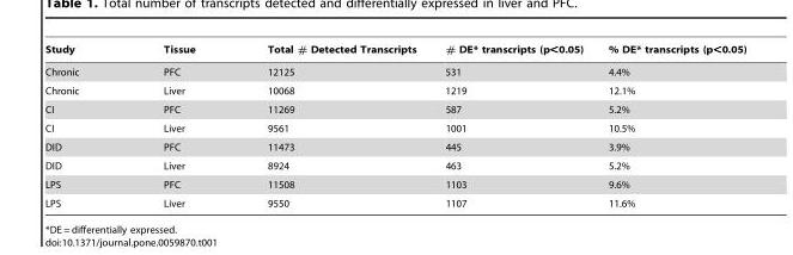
<table><thead><tr><td>Study</td><td>Tissue</td><td>Total # Detected Transcripts</td><td># DE* transcripts (p&lt;0.05)</td><td>% DE* transcripts (p&lt;0.05)</td></tr></thead><tbody><tr><td>Chronic</td><td>PFC</td><td>12125</td><td>531</td><td>4.4%</td></tr><tr><td>Chronic</td><td>Liver</td><td>10068</td><td>1219</td><td>12.1%</td></tr><tr><td>CI</td><td>PFC</td><td>11269</td><td>587</td><td>5.2%</td></tr><tr><td>CI</td><td>Liver</td><td>9561</td><td>1001</td><td>10.5%</td></tr><tr><td>DID</td><td>PFC</td><td>11473</td><td>445</td><td>3.9%</td></tr><tr><td>DID</td><td>Liver</td><td>8924</td><td>463</td><td>5.2%</td></tr><tr><td>LPS</td><td>PFC</td><td>11508</td><td>1103</td><td>9.6%</td></tr><tr><td>LPS</td><td>Liver</td><td>9550</td><td>1107</td><td>11.6%</td></tr></tbody></table>